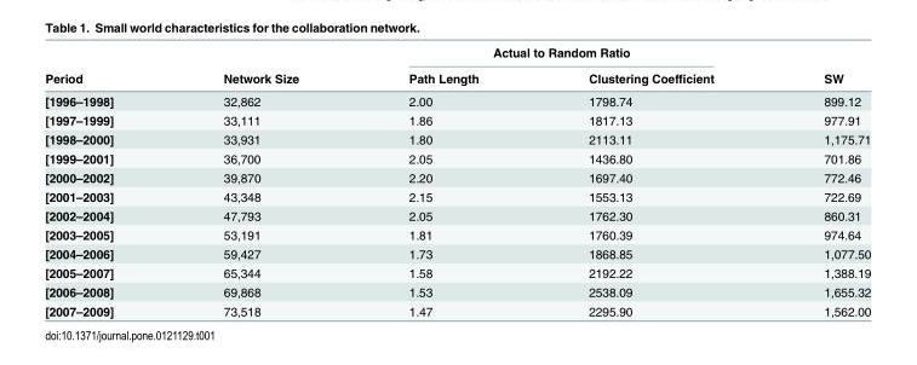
<table><thead><tr><td rowspan="2">Period</td><td rowspan="2">Network Size</td><td colspan="2">Actual to Random Ratio</td><td rowspan="2">SW</td></tr><tr><td>Path Length</td><td>Clustering Coefficient</td></tr></thead><tbody><tr><td>[1996–1998]</td><td>32,862</td><td>2.00</td><td>1798.74</td><td>899.12</td></tr><tr><td>[1997–1999]</td><td>33,111</td><td>1.86</td><td>1817.13</td><td>977.91</td></tr><tr><td>[1998–2000]</td><td>33,931</td><td>1.80</td><td>2113.11</td><td>1,175.71</td></tr><tr><td>[1999–2001]</td><td>36,700</td><td>2.05</td><td>1436.80</td><td>701.86</td></tr><tr><td>[2000–2002]</td><td>39,870</td><td>2.20</td><td>1697.40</td><td>772.46</td></tr><tr><td>[2001–2003]</td><td>43,348</td><td>2.15</td><td>1553.13</td><td>722.69</td></tr><tr><td>[2002–2004]</td><td>47,793</td><td>2.05</td><td>1762.30</td><td>860.31</td></tr><tr><td>[2003–2005]</td><td>53,191</td><td>1.81</td><td>1760.39</td><td>974.64</td></tr><tr><td>[2004–2006]</td><td>59,427</td><td>1.73</td><td>1868.85</td><td>1,077.50</td></tr><tr><td>[2005–2007]</td><td>65,344</td><td>1.58</td><td>2192.22</td><td>1,388.19</td></tr><tr><td>[2006–2008]</td><td>69,868</td><td>1.53</td><td>2538.09</td><td>1,655.32</td></tr><tr><td>[2007–2009]</td><td>73,518</td><td>1.47</td><td>2295.90</td><td>1,562.00</td></tr></tbody></table>